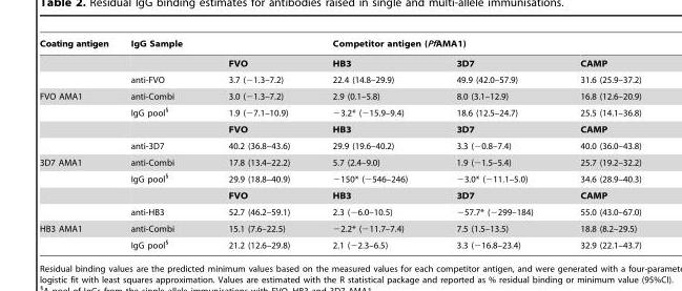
<table><thead><tr><td rowspan="2">Coating antigen</td><td rowspan="2">IgG Sample</td><td rowspan="2">FVO</td><td colspan="2">Competitor antigen (PfAMA1)</td><td rowspan="2">CAMP</td></tr><tr><td>HB3</td><td>3D7</td></tr></thead><tbody><tr><td></td><td>anti-FVO</td><td>3.7 (−1.3–7.2)</td><td>22.4 (14.8–29.9)</td><td>49.9 (42.0–57.9)</td><td>31.6 (25.9–37.2)</td></tr><tr><td rowspan="4">FVO AMA1</td><td>anti-Combi</td><td>3.0 (−1.3–7.2)</td><td>2.9 (0.1–5.8)</td><td>8.0 (3.1–12.9)</td><td>16.8 (12.6–20.9)</td></tr><tr><td>IgG pool§</td><td>1.9 (−7.1–10.9)</td><td>−3.2* (−15.9–9.4)</td><td>18.6 (12.5–24.7)</td><td>25.5 (14.1–36.8)</td></tr><tr><td></td><td>FVO</td><td>HB3</td><td>3D7</td><td>CAMP</td></tr><tr><td>anti-3D7</td><td>40.2 (36.8–43.6)</td><td>29.9 (19.6–40.2)</td><td>3.3 (−0.8–7.4)</td><td>40.0 (36.0–43.8)</td></tr><tr><td rowspan="4">3D7 AMA1</td><td>anti-Combi</td><td>17.8 (13.4–22.2)</td><td>5.7 (2.4–9.0)</td><td>1.9 (−1.5–5.4)</td><td>25.7 (19.2–32.2)</td></tr><tr><td>IgG pool§</td><td>29.9 (18.8–40.9)</td><td>−150* (−546–246)</td><td>−3.0* (−11.1–5.0)</td><td>34.6 (28.9–40.3)</td></tr><tr><td></td><td>FVO</td><td>HB3</td><td>3D7</td><td>CAMP</td></tr><tr><td>anti-HB3</td><td>52.7 (46.2–59.1)</td><td>2.3 (−6.0–10.5)</td><td>−57.7* (−299–184)</td><td>55.0 (43.0–67.0)</td></tr><tr><td rowspan="2">HB3 AMA1</td><td>anti-Combi</td><td>15.1 (7.6–22.5)</td><td>−2.2* (−11.7–7.4)</td><td>7.5 (1.5–13.5)</td><td>18.8 (8.2–29.5)</td></tr><tr><td>IgG pool§</td><td>21.2 (12.6–29.8)</td><td>2.1 (−2.3–6.5)</td><td>3.3 (−16.8–23.4)</td><td>32.9 (22.1–43.7)</td></tr></tbody></table>